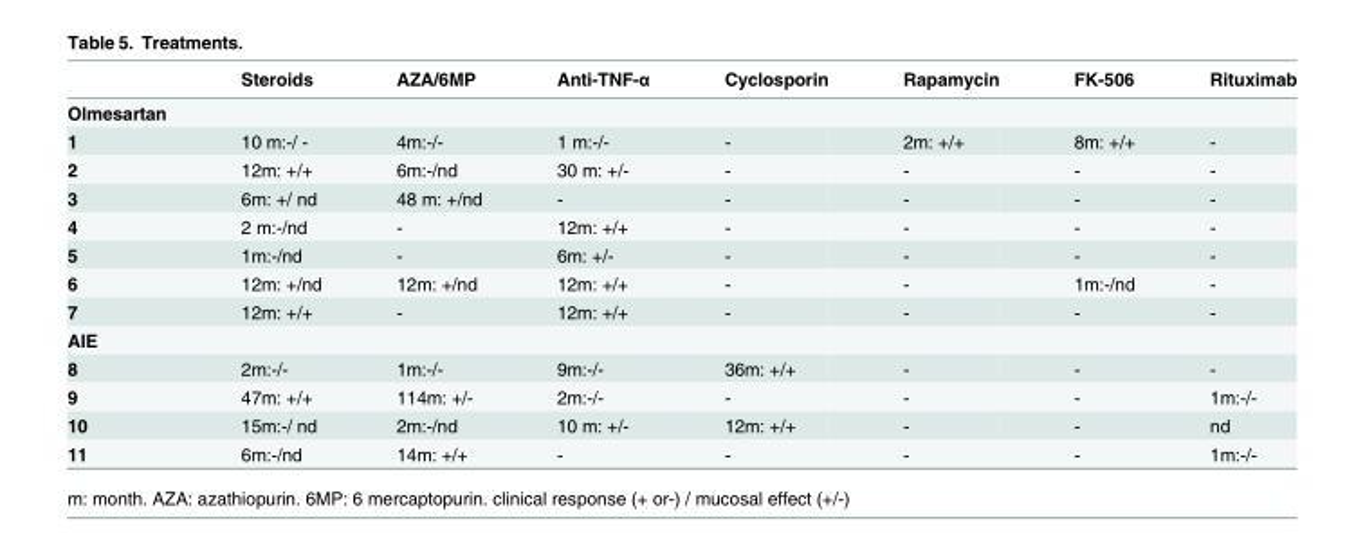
<table><thead><tr><td></td><td>Steroids</td><td>AZA/6MP</td><td>Anti-TNF-α</td><td>Cyclosporin</td><td>Rapamycin</td><td>FK-506</td><td>Rituximab</td></tr></thead><tbody><tr><td colspan="8">Olmesartan</td></tr><tr><td>1</td><td>10 m:-/ -</td><td>4m:-/-</td><td>1 m:-/-</td><td>-</td><td>2m: +/+</td><td>8m: +/+</td><td>-</td></tr><tr><td>2</td><td>12m: +/+</td><td>6m:-/nd</td><td>30 m: +/-</td><td>-</td><td>-</td><td>-</td><td>-</td></tr><tr><td>3</td><td>6m: +/ nd</td><td>48 m: +/nd</td><td>-</td><td>-</td><td>-</td><td>-</td><td>-</td></tr><tr><td>4</td><td>2 m:-/nd</td><td>-</td><td>12m: +/+</td><td>-</td><td>-</td><td>-</td><td>-</td></tr><tr><td>5</td><td>1m:-/nd</td><td>-</td><td>6m: +/-</td><td>-</td><td>-</td><td>-</td><td>-</td></tr><tr><td>6</td><td>12m: +/nd</td><td>12m: +/nd</td><td>12m: +/+</td><td>-</td><td>-</td><td>1m:-/nd</td><td>-</td></tr><tr><td>7</td><td>12m: +/+</td><td>-</td><td>12m: +/+</td><td>-</td><td>-</td><td>-</td><td>-</td></tr><tr><td colspan="8">AIE</td></tr><tr><td>8</td><td>2m:-/-</td><td>1m:-/-</td><td>9m:-/-</td><td>36m: +/+</td><td>-</td><td>-</td><td>-</td></tr><tr><td>9</td><td>47m: +/+</td><td>114m: +/-</td><td>2m:-/-</td><td>-</td><td>-</td><td>-</td><td>1m:-/-</td></tr><tr><td>10</td><td>15m:-/ nd</td><td>2m:-/nd</td><td>10 m: +/-</td><td>12m: +/+</td><td>-</td><td>-</td><td>nd</td></tr><tr><td>11</td><td>6m:-/nd</td><td>14m: +/+</td><td>-</td><td>-</td><td>-</td><td>-</td><td>1m:-/-</td></tr></tbody></table>